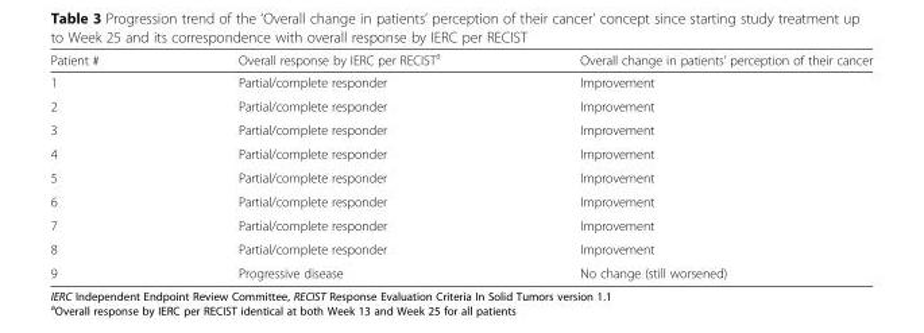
<table><thead><tr><td>Patient #</td><td>Overall response by IERC per RECIST<sup>a</sup></td><td>Overall change in patients’ perception of their cancer</td></tr></thead><tbody><tr><td>1</td><td>Partial/complete responder</td><td>Improvement</td></tr><tr><td>2</td><td>Partial/complete responder</td><td>Improvement</td></tr><tr><td>3</td><td>Partial/complete responder</td><td>Improvement</td></tr><tr><td>4</td><td>Partial/complete responder</td><td>Improvement</td></tr><tr><td>5</td><td>Partial/complete responder</td><td>Improvement</td></tr><tr><td>6</td><td>Partial/complete responder</td><td>Improvement</td></tr><tr><td>7</td><td>Partial/complete responder</td><td>Improvement</td></tr><tr><td>8</td><td>Partial/complete responder</td><td>Improvement</td></tr><tr><td>9</td><td>Progressive disease</td><td>No change (still worsened)</td></tr></tbody></table>